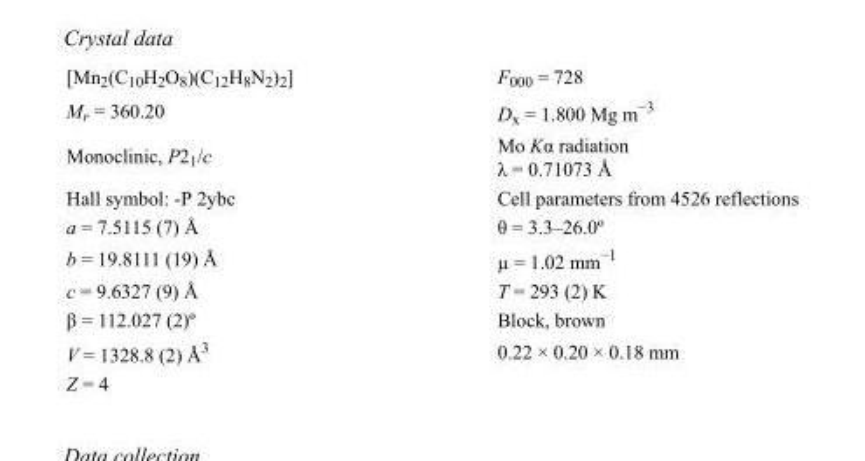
<table><tbody><tr><td>[Mn<sub>2</sub>(C<sub>10</sub>H<sub>2</sub>O<sub>8</sub>)(C<sub>12</sub>H<sub>8</sub>N<sub>2</sub>)<sub>2</sub>]</td><td>F<sub>000</sub> = 728</td></tr><tr><td>M<sub>r</sub> = 360.20</td><td>D<sub>x</sub> = 1.800 Mg m<sup>−3</sup></td></tr><tr><td>Monoclinic, P2<sub>1</sub>/c</td><td>Mo Kα radiation λ = 0.71073 Å</td></tr><tr><td>Hall symbol: -P 2ybc</td><td>Cell parameters from 4526 reflections</td></tr><tr><td>a = 7.5115 (7) Å</td><td>θ = 3.3–26.0º</td></tr><tr><td>b = 19.8111 (19) Å</td><td>µ = 1.02 mm<sup>−1</sup></td></tr><tr><td>c = 9.6327 (9) Å</td><td>T = 293 (2) K</td></tr><tr><td>β = 112.027 (2)º</td><td>Block, brown</td></tr><tr><td>V = 1328.8 (2) Å<sup>3</sup></td><td>0.22 × 0.20 × 0.18 mm</td></tr><tr><td>Z = 4</td><td></td></tr></tbody></table>